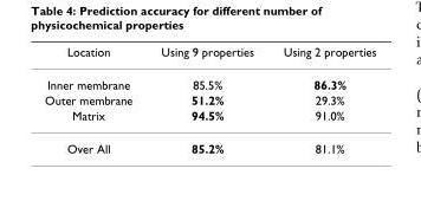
<table><thead><tr><td>Location</td><td>Using 9 properties</td><td>Using 2 properties</td></tr></thead><tbody><tr><td>Inner membrane</td><td>85.5%</td><td>86.3%</td></tr><tr><td>Outer membrane</td><td>51.2%</td><td>29.3%</td></tr><tr><td>Matrix</td><td>94.5%</td><td>91.0%</td></tr><tr><td>Over All</td><td>85.2%</td><td>81.1%</td></tr></tbody></table>